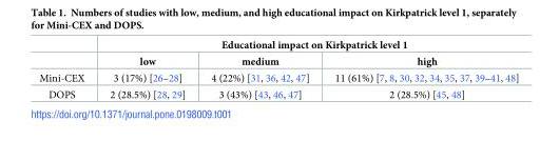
<table><thead><tr><td rowspan="2"></td><td colspan="3">Educational impact on Kirkpatrick level 1</td></tr><tr><td>low</td><td>medium</td><td>high</td></tr></thead><tbody><tr><td>Mini-CEX</td><td>3 (17%) [26–28]</td><td>4 (22%) [31, 36, 42, 47]</td><td>11 (61%) [7, 8, 30, 32, 34, 35, 37, 39–41, 48]</td></tr><tr><td>DOPS</td><td>2 (28.5%) [28, 29]</td><td>3 (43%) [43, 46, 47]</td><td>2 (28.5%) [45, 48]</td></tr></tbody></table>